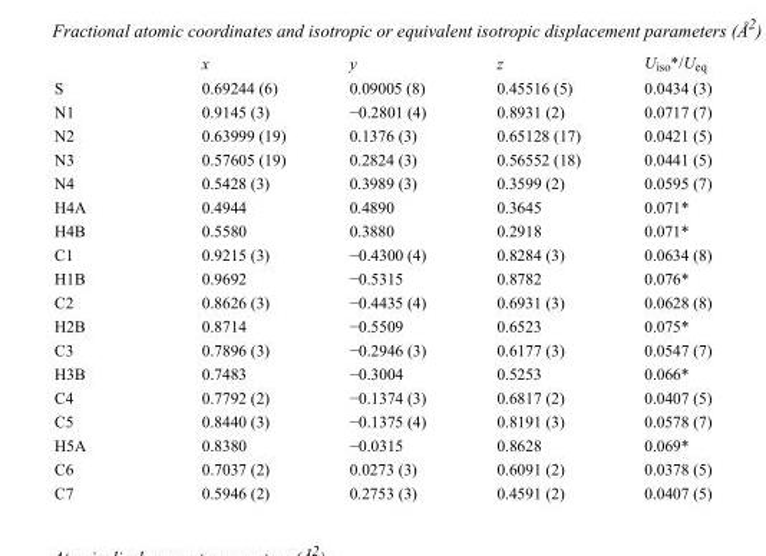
<table><thead><tr><td></td><td>x</td><td>y</td><td>z</td><td>U<sub>iso</sub>*/U<sub>eq</sub></td></tr></thead><tbody><tr><td>S</td><td>0.69244 (6)</td><td>0.09005 (8)</td><td>0.45516 (5)</td><td>0.0434 (3)</td></tr><tr><td>N1</td><td>0.9145 (3)</td><td>−0.2801 (4)</td><td>0.8931 (2)</td><td>0.0717 (7)</td></tr><tr><td>N2</td><td>0.63999 (19)</td><td>0.1376 (3)</td><td>0.65128 (17)</td><td>0.0421 (5)</td></tr><tr><td>N3</td><td>0.57605 (19)</td><td>0.2824 (3)</td><td>0.56552 (18)</td><td>0.0441 (5)</td></tr><tr><td>N4</td><td>0.5428 (3)</td><td>0.3989 (3)</td><td>0.3599 (2)</td><td>0.0595 (7)</td></tr><tr><td>H4A</td><td>0.4944</td><td>0.4890</td><td>0.3645</td><td>0.071*</td></tr><tr><td>H4B</td><td>0.5580</td><td>0.3880</td><td>0.2918</td><td>0.071*</td></tr><tr><td>C1</td><td>0.9215 (3)</td><td>−0.4300 (4)</td><td>0.8284 (3)</td><td>0.0634 (8)</td></tr><tr><td>H1B</td><td>0.9692</td><td>−0.5315</td><td>0.8782</td><td>0.076*</td></tr><tr><td>C2</td><td>0.8626 (3)</td><td>−0.4435 (4)</td><td>0.6931 (3)</td><td>0.0628 (8)</td></tr><tr><td>H2B</td><td>0.8714</td><td>−0.5509</td><td>0.6523</td><td>0.075*</td></tr><tr><td>C3</td><td>0.7896 (3)</td><td>−0.2946 (3)</td><td>0.6177 (3)</td><td>0.0547 (7)</td></tr><tr><td>H3B</td><td>0.7483</td><td>−0.3004</td><td>0.5253</td><td>0.066*</td></tr><tr><td>C4</td><td>0.7792 (2)</td><td>−0.1374 (3)</td><td>0.6817 (2)</td><td>0.0407 (5)</td></tr><tr><td>C5</td><td>0.8440 (3)</td><td>−0.1375 (4)</td><td>0.8191 (3)</td><td>0.0578 (7)</td></tr><tr><td>H5A</td><td>0.8380</td><td>−0.0315</td><td>0.8628</td><td>0.069*</td></tr><tr><td>C6</td><td>0.7037 (2)</td><td>0.0273 (3)</td><td>0.6091 (2)</td><td>0.0378 (5)</td></tr><tr><td>C7</td><td>0.5946 (2)</td><td>0.2753 (3)</td><td>0.4591 (2)</td><td>0.0407 (5)</td></tr></tbody></table>